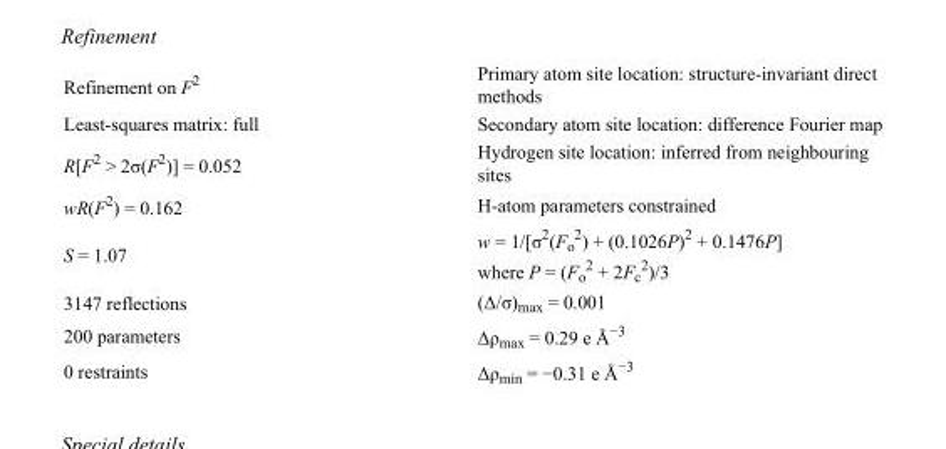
<table><tbody><tr><td>Refinement on F<sup>2</sup></td><td>Primary atom site location: structure-invariant direct methods</td></tr><tr><td>Least-squares matrix: full</td><td>Secondary atom site location: difference Fourier map</td></tr><tr><td>R[F<sup>2</sup> &gt; 2σ(F<sup>2</sup>)] = 0.052</td><td>Hydrogen site location: inferred from neighbouring sites</td></tr><tr><td>wR(F<sup>2</sup>) = 0.162</td><td>H-atom parameters constrained</td></tr><tr><td>S = 1.07</td><td>w = 1/[σ<sup>2</sup>(F<sub>o</sub> <sup>2</sup>) + (0.1026P)<sup>2</sup> + 0.1476P] where P = (F<sub>o</sub> <sup>2</sup> + 2F<sub>c</sub> <sup>2</sup>)/3</td></tr><tr><td>3147 reflections</td><td>(Δ/σ)<sub>max</sub> = 0.001</td></tr><tr><td>200 parameters</td><td>Δρ<sub>max</sub> = 0.29 e Å<sup>−3</sup></td></tr><tr><td>0 restraints</td><td>Δρmin = −0.31 e Å−3</td></tr></tbody></table>